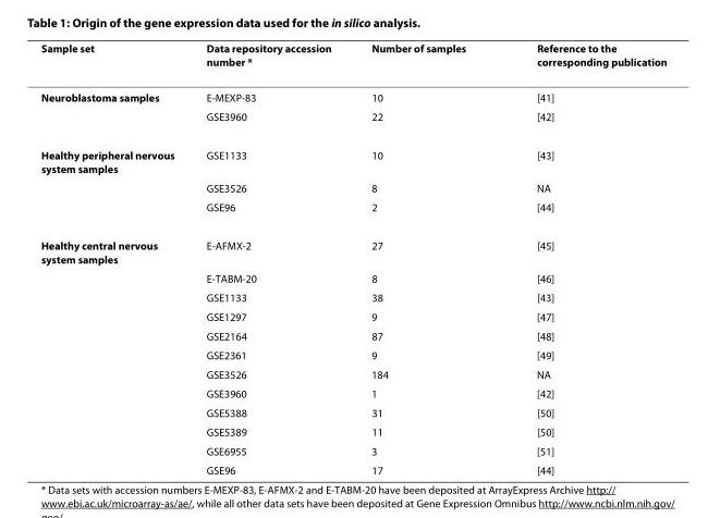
<table><thead><tr><td>Sample set</td><td>Data repository accession number *</td><td>Number of samples</td><td>Reference to the corresponding publication</td></tr></thead><tbody><tr><td rowspan="2">Neuroblastoma samples</td><td>E-MEXP-83</td><td>10</td><td>[41]</td></tr><tr><td>GSE3960</td><td>22</td><td>[42]</td></tr><tr><td rowspan="3">Healthy peripheral nervous system samples</td><td>GSE1133</td><td>10</td><td>[43]</td></tr><tr><td>GSE3526</td><td>8</td><td>NA</td></tr><tr><td>GSE96</td><td>2</td><td>[44]</td></tr><tr><td rowspan="12">Healthy central nervous system samples</td><td>E-AFMX-2</td><td>27</td><td>[45]</td></tr><tr><td>E-TABM-20</td><td>8</td><td>[46]</td></tr><tr><td>GSE1133</td><td>38</td><td>[43]</td></tr><tr><td>GSE1297</td><td>9</td><td>[47]</td></tr><tr><td>GSE2164</td><td>87</td><td>[48]</td></tr><tr><td>GSE2361</td><td>9</td><td>[49]</td></tr><tr><td>GSE3526</td><td>184</td><td>NA</td></tr><tr><td>GSE3960</td><td>1</td><td>[42]</td></tr><tr><td>GSE5388</td><td>31</td><td>[50]</td></tr><tr><td>GSE5389</td><td>11</td><td>[50]</td></tr><tr><td>GSE6955</td><td>3</td><td>[51]</td></tr><tr><td>GSE96</td><td>17</td><td>[44]</td></tr></tbody></table>